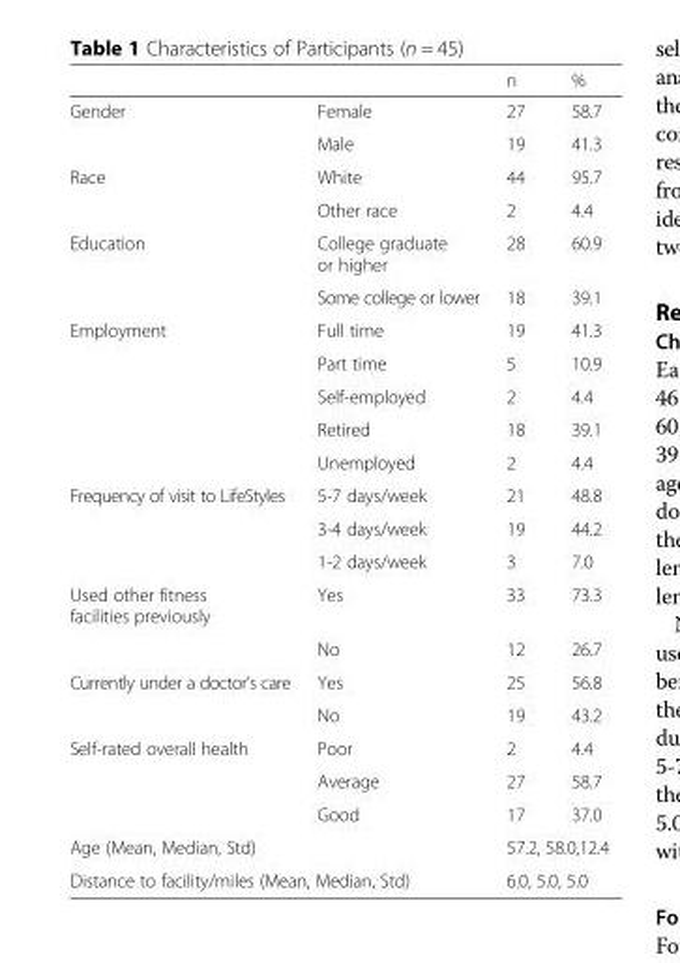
<table><thead><tr><td></td><td></td><td>n</td><td>%</td></tr></thead><tbody><tr><td rowspan="2">Gender</td><td>Female</td><td>27</td><td>58.7</td></tr><tr><td>Male</td><td>19</td><td>41.3</td></tr><tr><td rowspan="2">Race</td><td>White</td><td>44</td><td>95.7</td></tr><tr><td>Other race</td><td>2</td><td>4.4</td></tr><tr><td rowspan="2">Education</td><td>College graduate or higher</td><td>28</td><td>60.9</td></tr><tr><td>Some college or lower</td><td>18</td><td>39.1</td></tr><tr><td rowspan="5">Employment</td><td>Full time</td><td>19</td><td>41.3</td></tr><tr><td>Part time</td><td>5</td><td>10.9</td></tr><tr><td>Self-employed</td><td>2</td><td>4.4</td></tr><tr><td>Retired</td><td>18</td><td>39.1</td></tr><tr><td>Unemployed</td><td>2</td><td>4.4</td></tr><tr><td rowspan="3">Frequency of visit to LifeStyles</td><td>5-7 days/week</td><td>21</td><td>48.8</td></tr><tr><td>3-4 days/week</td><td>19</td><td>44.2</td></tr><tr><td>1-2 days/week</td><td>3</td><td>7.0</td></tr><tr><td rowspan="2">Used other fitness facilities previously</td><td>Yes</td><td>33</td><td>73.3</td></tr><tr><td>No</td><td>12</td><td>26.7</td></tr><tr><td rowspan="2">Currently under a doctor’s care</td><td>Yes</td><td>25</td><td>56.8</td></tr><tr><td>No</td><td>19</td><td>43.2</td></tr><tr><td rowspan="3">Self-rated overall health</td><td>Poor</td><td>2</td><td>4.4</td></tr><tr><td>Average</td><td>27</td><td>58.7</td></tr><tr><td>Good</td><td>17</td><td>37.0</td></tr><tr><td>Age (Mean, Median, Std)</td><td></td><td colspan="2">57.2, 58.0,12.4</td></tr><tr><td colspan="2">Distance to facility/miles (Mean, Median, Std)</td><td colspan="2">6.0, 5.0, 5.0</td></tr></tbody></table>